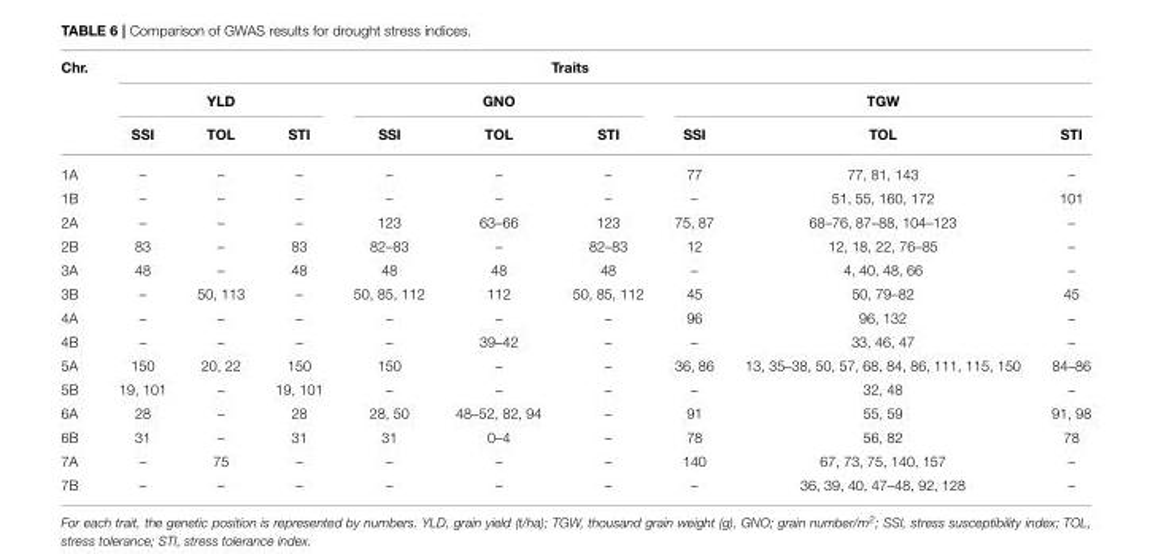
<table><thead><tr><td rowspan="3">Chr.</td><td colspan="9">Traits</td></tr><tr><td colspan="3">YLD</td><td colspan="3">GNO</td><td colspan="3">TGW</td></tr><tr><td>SSI</td><td>TOL</td><td>STI</td><td>SSI</td><td>TOL</td><td>STI</td><td>SSI</td><td>TOL</td><td>STI</td></tr></thead><tbody><tr><td>1A</td><td>–</td><td>–</td><td>–</td><td>–</td><td>–</td><td>–</td><td>77</td><td>77, 81, 143</td><td>–</td></tr><tr><td>1B</td><td>–</td><td>–</td><td>–</td><td>–</td><td>–</td><td>–</td><td>–</td><td>51, 55, 160, 172</td><td>101</td></tr><tr><td>2A</td><td>–</td><td>–</td><td>–</td><td>123</td><td>63–66</td><td>123</td><td>75, 87</td><td>68–76, 87–88, 104–123</td><td>–</td></tr><tr><td>2B</td><td>83</td><td>–</td><td>83</td><td>82–83</td><td>–</td><td>82–83</td><td>12</td><td>12, 18, 22, 76–85</td><td>–</td></tr><tr><td>3A</td><td>48</td><td>–</td><td>48</td><td>48</td><td>48</td><td>48</td><td>–</td><td>4, 40, 48, 66</td><td>–</td></tr><tr><td>3B</td><td>–</td><td>50, 113</td><td>–</td><td>50, 85, 112</td><td>112</td><td>50, 85, 112</td><td>45</td><td>50, 79–82</td><td>45</td></tr><tr><td>4A</td><td>–</td><td>–</td><td>–</td><td>–</td><td>–</td><td>–</td><td>96</td><td>96, 132</td><td>–</td></tr><tr><td>4B</td><td>–</td><td>–</td><td>–</td><td>–</td><td>39–42</td><td>–</td><td>–</td><td>33, 46, 47</td><td>–</td></tr><tr><td>5A</td><td>150</td><td>20, 22</td><td>150</td><td>150</td><td>–</td><td>–</td><td>36, 86</td><td>13, 35–38, 50, 57, 68, 84, 86, 111, 115, 150</td><td>84–86</td></tr><tr><td>5B</td><td>19, 101</td><td>–</td><td>19, 101</td><td>–</td><td>–</td><td>–</td><td>–</td><td>32, 48</td><td>–</td></tr><tr><td>6A</td><td>28</td><td>–</td><td>28</td><td>28, 50</td><td>48–52, 82, 94</td><td>–</td><td>91</td><td>55, 59</td><td>91, 98</td></tr><tr><td>6B</td><td>31</td><td>–</td><td>31</td><td>31</td><td>0–4</td><td>–</td><td>78</td><td>56, 82</td><td>78</td></tr><tr><td>7A</td><td>–</td><td>75</td><td>–</td><td>–</td><td>–</td><td>–</td><td>140</td><td>67, 73, 75, 140, 157</td><td>–</td></tr><tr><td>7B</td><td>–</td><td>–</td><td>–</td><td>–</td><td>–</td><td>–</td><td>–</td><td>36, 39, 40, 47–48, 92, 128</td><td>–</td></tr></tbody></table>